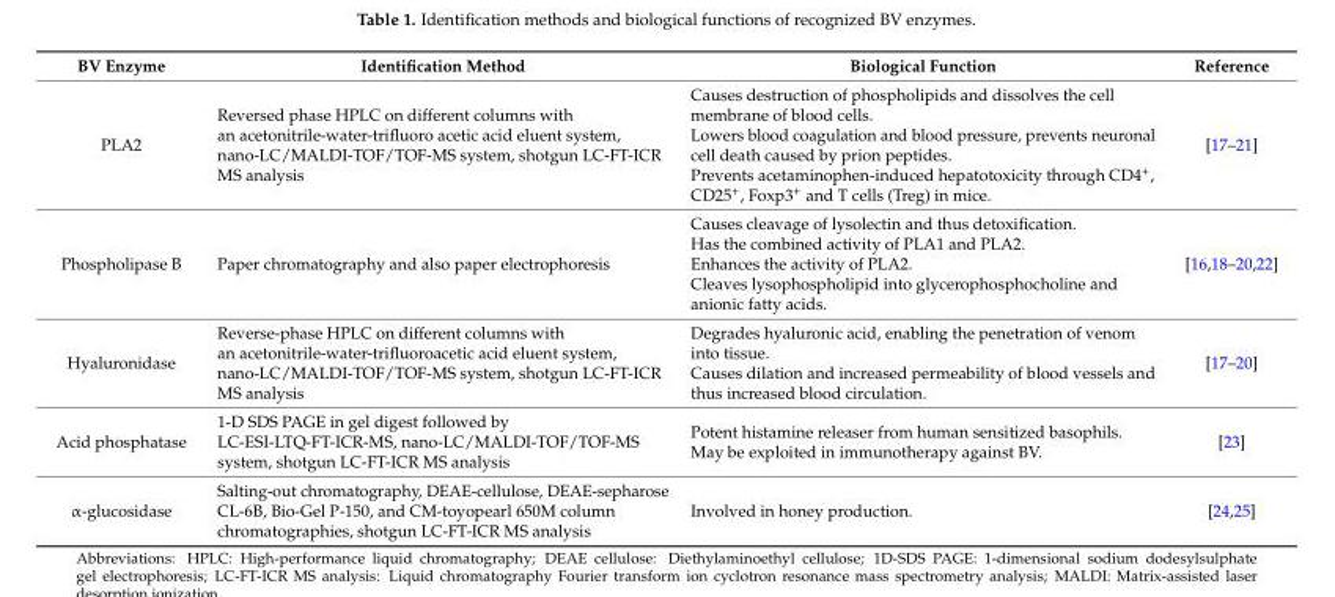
<table><thead><tr><td>BV Enzyme</td><td>Identification Method</td><td>Biological Function</td><td>Reference</td></tr></thead><tbody><tr><td>PLA2</td><td>Reversed phase HPLC on different columns with an acetonitrile-water-trifluoro acetic acid eluent system, nano-LC/MALDI-TOF/TOF-MS system, shotgun LC-FT-ICR MS analysis</td><td>Causes destruction of phospholipids and dissolves the cell membrane of blood cells. Lowers blood coagulation and blood pressure, prevents neuronal cell death caused by prion peptides. Prevents acetaminophen-induced hepatotoxicity through CD4<sup>+</sup>, CD25<sup>+</sup>, Foxp3<sup>+</sup> and T cells (Treg) in mice.</td><td>[17–21]</td></tr><tr><td>Phospholipase B</td><td>Paper chromatography and also paper electrophoresis</td><td>Causes cleavage of lysolectin and thus detoxification. Has the combined activity of PLA1 and PLA2. Enhances the activity of PLA2. Cleaves lysophospholipid into glycerophosphocholine and anionic fatty acids.</td><td>[16,18–20,22]</td></tr><tr><td>Hyaluronidase</td><td>Reverse-phase HPLC on different columns with an acetonitrile-water-trifluoroacetic acid eluent system, nano-LC/MALDI-TOF/TOF-MS system, shotgun LC-FT-ICR MS analysis</td><td>Degrades hyaluronic acid, enabling the penetration of venom into tissue. Causes dilation and increased permeability of blood vessels and thus increased blood circulation.</td><td>[17–20]</td></tr><tr><td>Acid phosphatase</td><td>1-D SDS PAGE in gel digest followed by LC-ESI-LTQ-FT-ICR-MS, nano-LC/MALDI-TOF/TOF-MS system, shotgun LC-FT-ICR MS analysis</td><td>Potent histamine releaser from human sensitized basophils. May be exploited in immunotherapy against BV.</td><td>[23]</td></tr><tr><td>α-glucosidase</td><td>Salting-out chromatography, DEAE-cellulose, DEAE-sepharose CL-6B, Bio-Gel P-150, and CM-toyopearl 650M column chromatographies, shotgun LC-FT-ICR MS analysis</td><td>Involved in honey production.</td><td>[24,25]</td></tr></tbody></table>